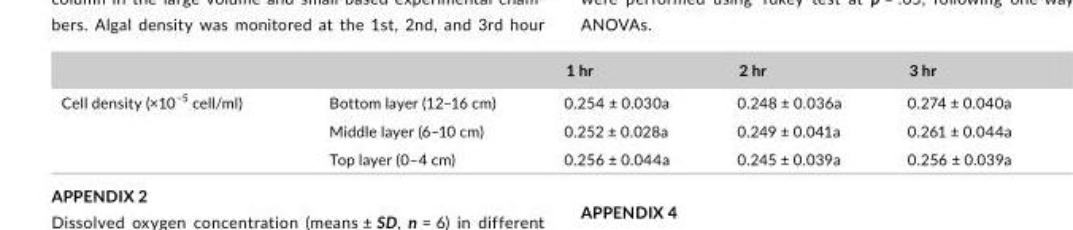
<table><thead><tr><td></td><td></td><td>1 hr</td><td>2 hr</td><td>3 hr</td></tr></thead><tbody><tr><td rowspan="3">Cell density (×10<sup>−5</sup> cell/ml)</td><td>Bottom layer (12–16 cm)</td><td>0.254 ± 0.030a</td><td>0.248 ± 0.036a</td><td>0.274 ± 0.040a</td></tr><tr><td>Middle layer (6–10 cm)</td><td>0.252 ± 0.028a</td><td>0.249 ± 0.041a</td><td>0.261 ± 0.044a</td></tr><tr><td>Top layer (0–4 cm)</td><td>0.256 ± 0.044a</td><td>0.245 ± 0.039a</td><td>0.256 ± 0.039a</td></tr></tbody></table>